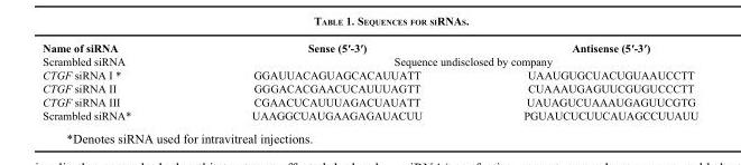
<table><thead><tr><td>Name of siRNA</td><td>Sense (5′-3′)</td><td>Antisense (5′-3′)</td></tr></thead><tbody><tr><td>Scrambled siRNA</td><td colspan="2">Sequence undisclosed by company</td></tr><tr><td>CTGF siRNA I *</td><td>GGAUUACAGUAGCACAUUATT</td><td>UAAUGUGCUACUGUAAUCCTT</td></tr><tr><td>CTGF siRNA II</td><td>GGGACACGAACUCAUUUAGTT</td><td>CUAAAUGAGUUCGUGUCCCTT</td></tr><tr><td>CTGF siRNA III</td><td>CGAACUCAUUUAGACUAUATT</td><td>UAUAGUCUAAAUGAGUUCGTG</td></tr><tr><td>Scrambled siRNA*</td><td>UAAGGCUAUGAAGAGAUACUU</td><td>PGUAUCUCUUCAUAGCCUUAUU</td></tr></tbody></table>